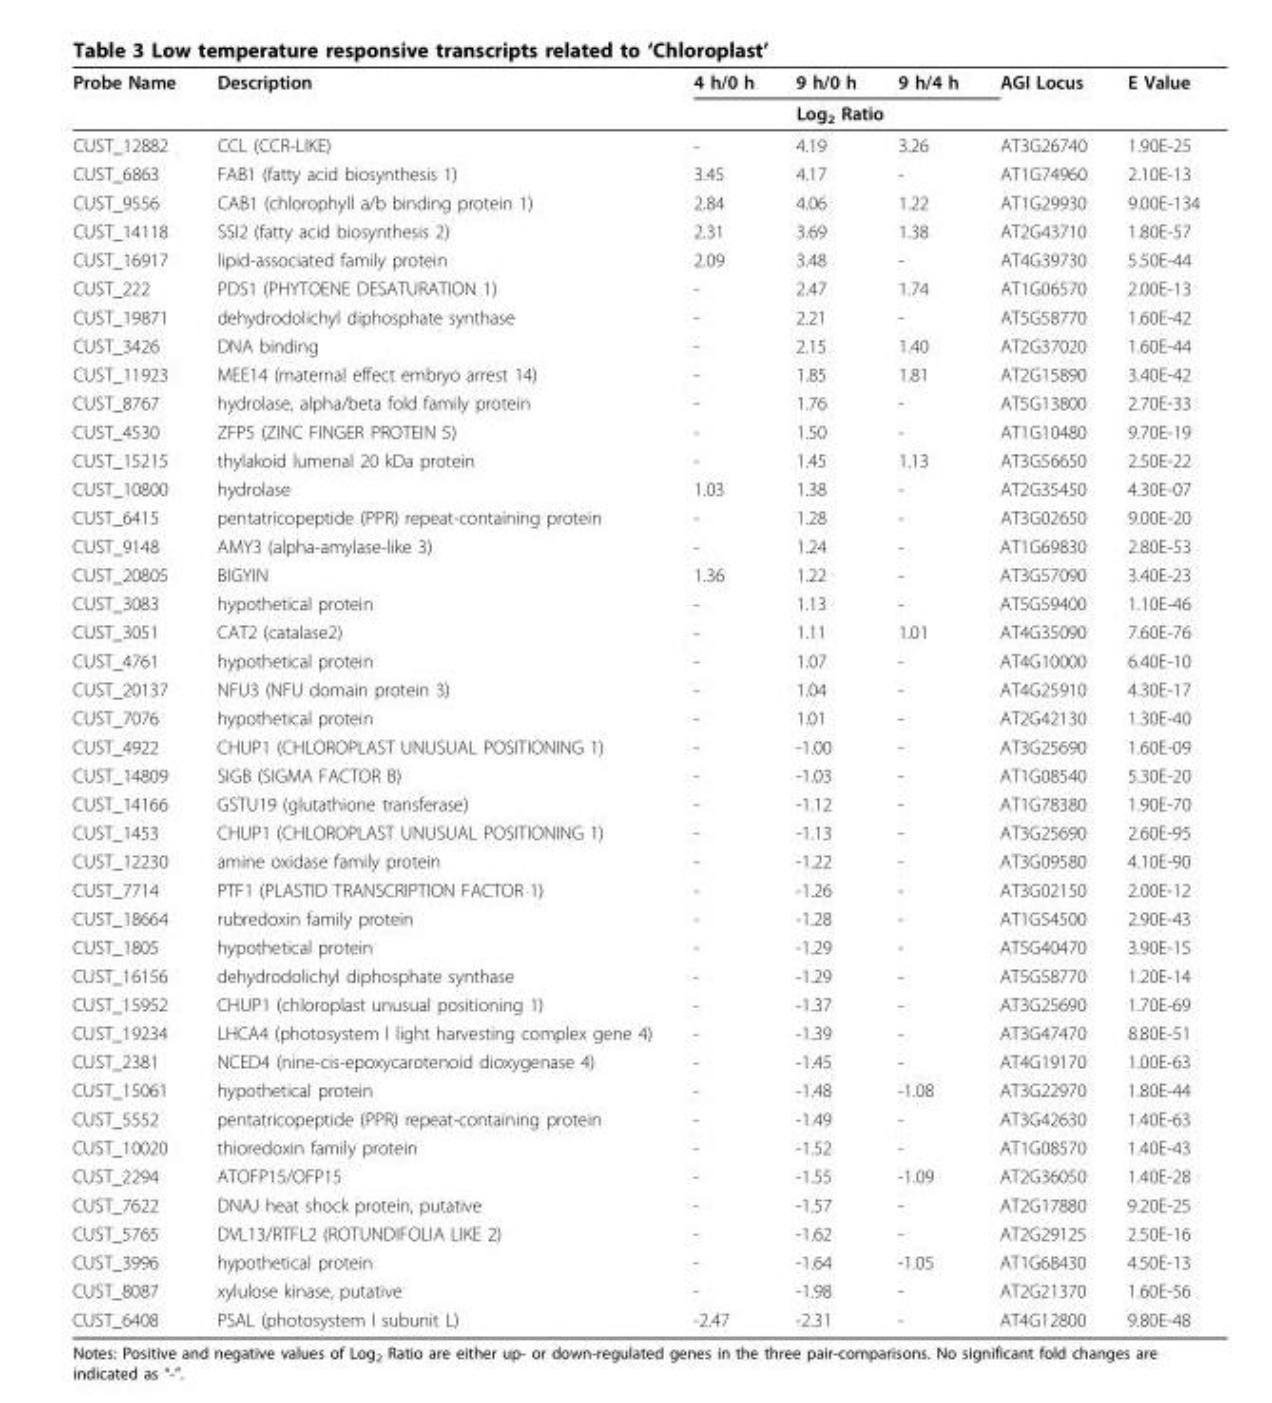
<table><thead><tr><td rowspan="2">Probe Name</td><td rowspan="2">Description</td><td>4 h/0 h</td><td>9 h/0 h</td><td>9 h/4 h</td><td rowspan="2">AGI Locus</td><td rowspan="2">E Value</td></tr><tr><td colspan="3">Log<sub>2</sub> Ratio</td></tr></thead><tbody><tr><td>CUST_12882</td><td>CCL (CCR-LIKE)</td><td>-</td><td>4.19</td><td>3.26</td><td>AT3G26740</td><td>1.90E-25</td></tr><tr><td>CUST_6863</td><td>FAB1 (fatty acid biosynthesis 1)</td><td>3.45</td><td>4.17</td><td>-</td><td>AT1G74960</td><td>2.10E-13</td></tr><tr><td>CUST_9556</td><td>CAB1 (chlorophyll a/b binding protein 1)</td><td>2.84</td><td>4.06</td><td>1.22</td><td>AT1G29930</td><td>9.00E-134</td></tr><tr><td>CUST_14118</td><td>SSI2 (fatty acid biosynthesis 2)</td><td>2.31</td><td>3.69</td><td>1.38</td><td>AT2G43710</td><td>1.80E-57</td></tr><tr><td>CUST_16917</td><td>lipid-associated family protein</td><td>2.09</td><td>3.48</td><td>-</td><td>AT4G39730</td><td>5.50E-44</td></tr><tr><td>CUST_222</td><td>PDS1 (PHYTOENE DESATURATION 1)</td><td>-</td><td>2.47</td><td>1.74</td><td>AT1G06570</td><td>2.00E-13</td></tr><tr><td>CUST_19871</td><td>dehydrodolichyl diphosphate synthase</td><td>-</td><td>2.21</td><td>-</td><td>AT5G58770</td><td>1.60E-42</td></tr><tr><td>CUST_3426</td><td>DNA binding</td><td>-</td><td>2.15</td><td>1.40</td><td>AT2G37020</td><td>1.60E-44</td></tr><tr><td>CUST_11923</td><td>MEE14 (maternal effect embryo arrest 14)</td><td>-</td><td>1.85</td><td>1.81</td><td>AT2G15890</td><td>3.40E-42</td></tr><tr><td>CUST_8767</td><td>hydrolase, alpha/beta fold family protein</td><td>-</td><td>1.76</td><td>-</td><td>AT5G13800</td><td>2.70E-33</td></tr><tr><td>CUST_4530</td><td>ZFP5 (ZINC FINGER PROTEIN 5)</td><td>-</td><td>1.50</td><td>-</td><td>AT1G10480</td><td>9.70E-19</td></tr><tr><td>CUST_15215</td><td>thylakoid lumenal 20 kDa protein</td><td>-</td><td>1.45</td><td>1.13</td><td>AT3G56650</td><td>2.50E-22</td></tr><tr><td>CUST_10800</td><td>hydrolase</td><td>1.03</td><td>1.38</td><td>-</td><td>AT2G35450</td><td>4.30E-07</td></tr><tr><td>CUST_6415</td><td>pentatricopeptide (PPR) repeat-containing protein</td><td>-</td><td>1.28</td><td>-</td><td>AT3G02650</td><td>9.00E-20</td></tr><tr><td>CUST_9148</td><td>AMY3 (alpha-amylase-like 3)</td><td>-</td><td>1.24</td><td>-</td><td>AT1G69830</td><td>2.80E-53</td></tr><tr><td>CUST_20805</td><td>BIGYIN</td><td>1.36</td><td>1.22</td><td>-</td><td>AT3G57090</td><td>3.40E-23</td></tr><tr><td>CUST_3083</td><td>hypothetical protein</td><td>-</td><td>1.13</td><td>-</td><td>AT5G59400</td><td>1.10E-46</td></tr><tr><td>CUST_3051</td><td>CAT2 (catalase2)</td><td>-</td><td>1.11</td><td>1.01</td><td>AT4G35090</td><td>7.60E-76</td></tr><tr><td>CUST_4761</td><td>hypothetical protein</td><td>-</td><td>1.07</td><td>-</td><td>AT4G10000</td><td>6.40E-10</td></tr><tr><td>CUST_20137</td><td>NFU3 (NFU domain protein 3)</td><td>-</td><td>1.04</td><td>-</td><td>AT4G25910</td><td>4.30E-17</td></tr><tr><td>CUST_7076</td><td>hypothetical protein</td><td>-</td><td>1.01</td><td>-</td><td>AT2G42130</td><td>1.30E-40</td></tr><tr><td>CUST_4922</td><td>CHUP1 (CHLOROPLAST UNUSUAL POSITIONING 1)</td><td>-</td><td>-1.00</td><td>-</td><td>AT3G25690</td><td>1.60E-09</td></tr><tr><td>CUST_14809</td><td>SIGB (SIGMA FACTOR B)</td><td>-</td><td>-1.03</td><td>-</td><td>AT1G08540</td><td>5.30E-20</td></tr><tr><td>CUST_14166</td><td>GSTU19 (glutathione transferase)</td><td>-</td><td>-1.12</td><td>-</td><td>AT1G78380</td><td>1.90E-70</td></tr><tr><td>CUST_1453</td><td>CHUP1 (CHLOROPLAST UNUSUAL POSITIONING 1)</td><td>-</td><td>-1.13</td><td>-</td><td>AT3G25690</td><td>2.60E-95</td></tr><tr><td>CUST_12230</td><td>amine oxidase family protein</td><td>-</td><td>-1.22</td><td>-</td><td>AT3G09580</td><td>4.10E-90</td></tr><tr><td>CUST_7714</td><td>PTF1 (PLASTID TRANSCRIPTION FACTOR 1)</td><td>-</td><td>-1.26</td><td>-</td><td>AT3G02150</td><td>2.00E-12</td></tr><tr><td>CUST_18664</td><td>rubredoxin family protein</td><td>-</td><td>-1.28</td><td>-</td><td>AT1G54500</td><td>2.90E-43</td></tr><tr><td>CUST_1805</td><td>hypothetical protein</td><td>-</td><td>-1.29</td><td>-</td><td>AT5G40470</td><td>3.90E-15</td></tr><tr><td>CUST_16156</td><td>dehydrodolichyl diphosphate synthase</td><td>-</td><td>-1.29</td><td>-</td><td>AT5G58770</td><td>1.20E-14</td></tr><tr><td>CUST_15952</td><td>CHUP1 (chloroplast unusual positioning 1)</td><td>-</td><td>-1.37</td><td>-</td><td>AT3G25690</td><td>1.70E-69</td></tr><tr><td>CUST_19234</td><td>LHCA4 (photosystem I light harvesting complex gene 4)</td><td>-</td><td>-1.39</td><td>-</td><td>AT3G47470</td><td>8.80E-51</td></tr><tr><td>CUST_2381</td><td>NCED4 (nine-cis-epoxycarotenoid dioxygenase 4)</td><td>-</td><td>-1.45</td><td>-</td><td>AT4G19170</td><td>1.00E-63</td></tr><tr><td>CUST_15061</td><td>hypothetical protein</td><td>-</td><td>-1.48</td><td>-1.08</td><td>AT3G22970</td><td>1.80E-44</td></tr><tr><td>CUST_5552</td><td>pentatricopeptide (PPR) repeat-containing protein</td><td>-</td><td>-1.49</td><td>-</td><td>AT3G42630</td><td>1.40E-63</td></tr><tr><td>CUST_10020</td><td>thioredoxin family protein</td><td>-</td><td>-1.52</td><td>-</td><td>AT1G08570</td><td>1.40E-43</td></tr><tr><td>CUST_2294</td><td>ATOFP15/OFP15</td><td>-</td><td>-1.55</td><td>-1.09</td><td>AT2G36050</td><td>1.40E-28</td></tr><tr><td>CUST_7622</td><td>DNAJ heat shock protein, putative</td><td>-</td><td>-1.57</td><td>-</td><td>AT2G17880</td><td>9.20E-25</td></tr><tr><td>CUST_5765</td><td>DVL13/RTFL2 (ROTUNDIFOLIA LIKE 2)</td><td>-</td><td>-1.62</td><td>-</td><td>AT2G29125</td><td>2.50E-16</td></tr><tr><td>CUST_3996</td><td>hypothetical protein</td><td>-</td><td>-1.64</td><td>-1.05</td><td>AT1G68430</td><td>4.50E-13</td></tr><tr><td>CUST_8087</td><td>xylulose kinase, putative</td><td>-</td><td>-1.98</td><td>-</td><td>AT2G21370</td><td>1.60E-56</td></tr><tr><td>CUST_6408</td><td>PSAL (photosystem I subunit L)</td><td>-2.47</td><td>-2.31</td><td>-</td><td>AT4G12800</td><td>9.80E-48</td></tr></tbody></table>